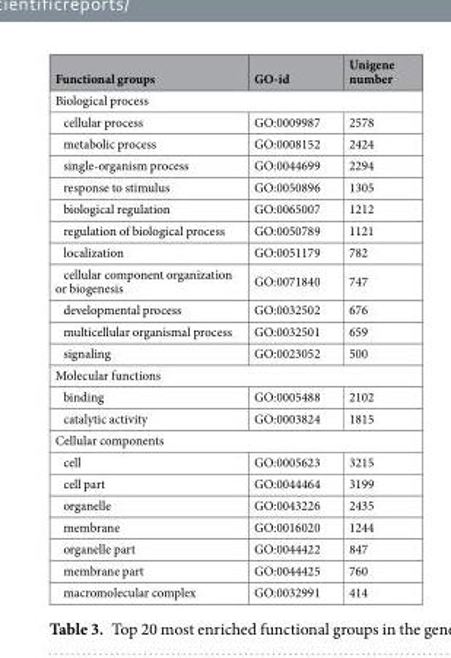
<table><thead><tr><td>Functional groups</td><td>GO-id</td><td>Unigene number</td></tr></thead><tbody><tr><td colspan="3">Biological process</td></tr><tr><td>cellular process</td><td>GO:0009987</td><td>2578</td></tr><tr><td>metabolic process</td><td>GO:0008152</td><td>2424</td></tr><tr><td>single-organism process</td><td>GO:0044699</td><td>2294</td></tr><tr><td>response to stimulus</td><td>GO:0050896</td><td>1305</td></tr><tr><td>biological regulation</td><td>GO:0065007</td><td>1212</td></tr><tr><td>regulation of biological process</td><td>GO:0050789</td><td>1121</td></tr><tr><td>localization</td><td>GO:0051179</td><td>782</td></tr><tr><td>cellular component organization or biogenesis</td><td>GO:0071840</td><td>747</td></tr><tr><td>developmental process</td><td>GO:0032502</td><td>676</td></tr><tr><td>multicellular organismal process</td><td>GO:0032501</td><td>659</td></tr><tr><td>signaling</td><td>GO:0023052</td><td>500</td></tr><tr><td colspan="3">Molecular functions</td></tr><tr><td>binding</td><td>GO:0005488</td><td>2102</td></tr><tr><td>catalytic activity</td><td>GO:0003824</td><td>1815</td></tr><tr><td colspan="3">Cellular components</td></tr><tr><td>cell</td><td>GO:0005623</td><td>3215</td></tr><tr><td>cell part</td><td>GO:0044464</td><td>3199</td></tr><tr><td>organelle</td><td>GO:0043226</td><td>2435</td></tr><tr><td>membrane</td><td>GO:0016020</td><td>1244</td></tr><tr><td>organelle part</td><td>GO:0044422</td><td>847</td></tr><tr><td>membrane part</td><td>GO:0044425</td><td>760</td></tr><tr><td>macromolecular complex</td><td>GO:0032991</td><td>414</td></tr></tbody></table>